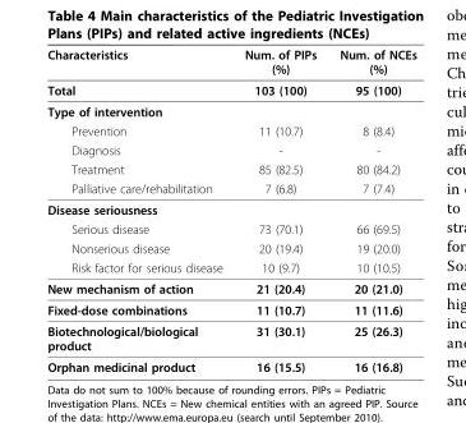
<table><thead><tr><td>Characteristics</td><td>Num. of PIPs (%)</td><td>Num. of NCEs (%)</td></tr></thead><tbody><tr><td>Total</td><td>103 (100)</td><td>95 (100)</td></tr><tr><td colspan="3">Type of intervention</td></tr><tr><td>Prevention</td><td>11 (10.7)</td><td>8 (8.4)</td></tr><tr><td>Diagnosis</td><td>-</td><td>-</td></tr><tr><td>Treatment</td><td>85 (82.5)</td><td>80 (84.2)</td></tr><tr><td>Palliative care/rehabilitation</td><td>7 (6.8)</td><td>7 (7.4)</td></tr><tr><td colspan="3">Disease seriousness</td></tr><tr><td>Serious disease</td><td>73 (70.1)</td><td>66 (69.5)</td></tr><tr><td>Nonserious disease</td><td>20 (19.4)</td><td>19 (20.0)</td></tr><tr><td>Risk factor for serious disease</td><td>10 (9.7)</td><td>10 (10.5)</td></tr><tr><td>New mechanism of action</td><td>21 (20.4)</td><td>20 (21.0)</td></tr><tr><td>Fixed-dose combinations</td><td>11 (10.7)</td><td>11 (11.6)</td></tr><tr><td>Biotechnological/biological product</td><td>31 (30.1)</td><td>25 (26.3)</td></tr><tr><td>Orphan medicinal product</td><td>16 (15.5)</td><td>16 (16.8)</td></tr></tbody></table>